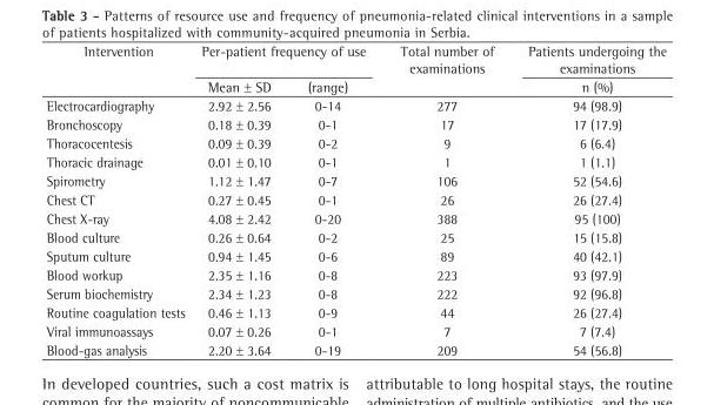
<table><thead><tr><td rowspan="2">Intervention</td><td colspan="2">Per-patient frequency of use</td><td rowspan="2">Total number of examinations</td><td rowspan="2">Patients undergoing the examinations n (%)</td></tr><tr><td>Mean ± SD</td><td>(range)</td></tr></thead><tbody><tr><td>Electrocardiography</td><td>2.92 ± 2.56</td><td>0-14</td><td>277</td><td>94 (98.9)</td></tr><tr><td>Bronchoscopy</td><td>0.18 ± 0.39</td><td>0-1</td><td>17</td><td>17 (17.9)</td></tr><tr><td>Thoracocentesis</td><td>0.09 ± 0.39</td><td>0-2</td><td>9</td><td>6 (6.4)</td></tr><tr><td>Thoracic drainage</td><td>0.01 ± 0.10</td><td>0-1</td><td>1</td><td>1 (1.1)</td></tr><tr><td>Spirometry</td><td>1.12 ± 1.47</td><td>0-7</td><td>106</td><td>52 (54.6)</td></tr><tr><td>Chest CT</td><td>0.27 ± 0.45</td><td>0-1</td><td>26</td><td>26 (27.4)</td></tr><tr><td>Chest X-ray</td><td>4.08 ± 2.42</td><td>0-20</td><td>388</td><td>95 (100)</td></tr><tr><td>Blood culture</td><td>0.26 ± 0.64</td><td>0-2</td><td>25</td><td>15 (15.8)</td></tr><tr><td>Sputum culture</td><td>0.94 ± 1.45</td><td>0-6</td><td>89</td><td>40 (42.1)</td></tr><tr><td>Blood workup</td><td>2.35 ± 1.16</td><td>0-8</td><td>223</td><td>93 (97.9)</td></tr><tr><td>Serum biochemistry</td><td>2.34 ± 1.23</td><td>0-8</td><td>222</td><td>92 (96.8)</td></tr><tr><td>Routine coagulation tests</td><td>0.46 ± 1.13</td><td>0-9</td><td>44</td><td>26 (27.4)</td></tr><tr><td>Viral immunoassays</td><td>0.07 ± 0.26</td><td>0-1</td><td>7</td><td>7 (7.4)</td></tr><tr><td>Blood-gas analysis</td><td>2.20 ± 3.64</td><td>0-19</td><td>209</td><td>54 (56.8)</td></tr></tbody></table>